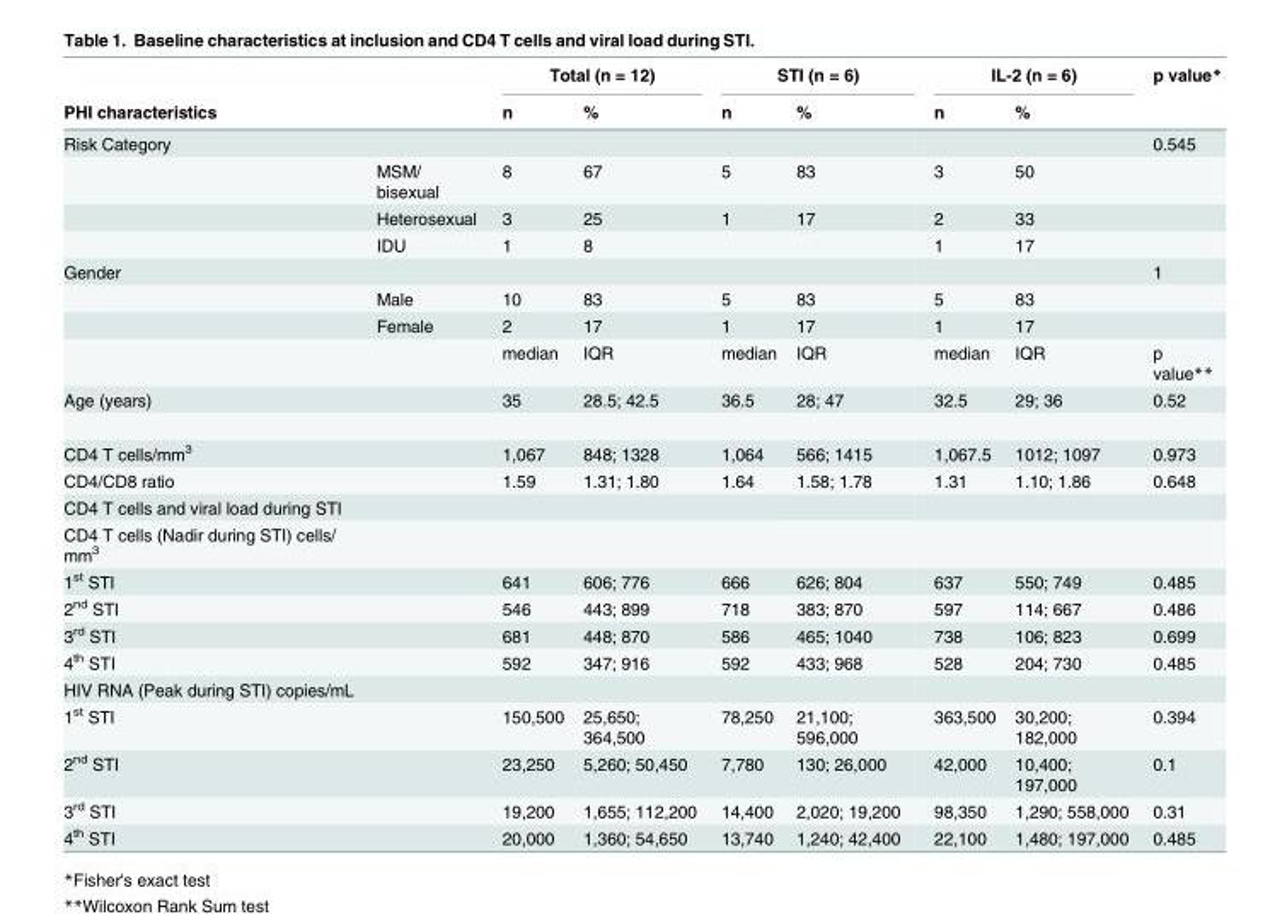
<table><thead><tr><td rowspan="2">PHI characteristics</td><td rowspan="2"></td><td colspan="2">Total (n = 12)</td><td colspan="2">STI (n = 6)</td><td colspan="2">IL-2 (n = 6)</td><td rowspan="2">p value*</td></tr><tr><td>n</td><td>%</td><td>n</td><td>%</td><td>n</td><td>%</td></tr></thead><tbody><tr><td rowspan="4">Risk Category</td><td></td><td></td><td></td><td></td><td></td><td></td><td></td><td>0.545</td></tr><tr><td>MSM/ bisexual</td><td>8</td><td>67</td><td>5</td><td>83</td><td>3</td><td>50</td><td></td></tr><tr><td>Heterosexual</td><td>3</td><td>25</td><td>1</td><td>17</td><td>2</td><td>33</td><td></td></tr><tr><td>IDU</td><td>1</td><td>8</td><td></td><td></td><td>1</td><td>17</td><td></td></tr><tr><td rowspan="4">Gender</td><td></td><td></td><td></td><td></td><td></td><td></td><td></td><td>1</td></tr><tr><td>Male</td><td>10</td><td>83</td><td>5</td><td>83</td><td>5</td><td>83</td><td></td></tr><tr><td>Female</td><td>2</td><td>17</td><td>1</td><td>17</td><td>1</td><td>17</td><td></td></tr><tr><td></td><td>median</td><td>IQR</td><td>median</td><td>IQR</td><td>median</td><td>IQR</td><td>p value**</td></tr><tr><td>Age (years)</td><td></td><td>35</td><td>28.5; 42.5</td><td>36.5</td><td>28; 47</td><td>32.5</td><td>29; 36</td><td>0.52</td></tr><tr><td>CD4 T cells/mm<sup>3</sup></td><td></td><td>1,067</td><td>848; 1328</td><td>1,064</td><td>566; 1415</td><td>1,067.5</td><td>1012; 1097</td><td>0.973</td></tr><tr><td>CD4/CD8 ratio</td><td></td><td>1.59</td><td>1.31; 1.80</td><td>1.64</td><td>1.58; 1.78</td><td>1.31</td><td>1.10; 1.86</td><td>0.648</td></tr><tr><td colspan="9">CD4 T cells and viral load during STI</td></tr><tr><td colspan="9">CD4 T cells (Nadir during STI) cells/ mm<sup>3</sup></td></tr><tr><td>1<sup>st</sup> STI</td><td></td><td>641</td><td>606; 776</td><td>666</td><td>626; 804</td><td>637</td><td>550; 749</td><td>0.485</td></tr><tr><td>2<sup>nd</sup> STI</td><td></td><td>546</td><td>443; 899</td><td>718</td><td>383; 870</td><td>597</td><td>114; 667</td><td>0.486</td></tr><tr><td>3<sup>rd</sup> STI</td><td></td><td>681</td><td>448; 870</td><td>586</td><td>465; 1040</td><td>738</td><td>106; 823</td><td>0.699</td></tr><tr><td>4<sup>th</sup> STI</td><td></td><td>592</td><td>347; 916</td><td>592</td><td>433; 968</td><td>528</td><td>204; 730</td><td>0.485</td></tr><tr><td colspan="9">HIV RNA (Peak during STI) copies/mL</td></tr><tr><td>1<sup>st</sup> STI</td><td></td><td>150,500</td><td>25,650; 364,500</td><td>78,250</td><td>21,100; 596,000</td><td>363,500</td><td>30,200; 182,000</td><td>0.394</td></tr><tr><td>2<sup>nd</sup> STI</td><td></td><td>23,250</td><td>5,260; 50,450</td><td>7,780</td><td>130; 26,000</td><td>42,000</td><td>10,400; 197,000</td><td>0.1</td></tr><tr><td>3<sup>rd</sup> STI</td><td></td><td>19,200</td><td>1,655; 112,200</td><td>14,400</td><td>2,020; 19,200</td><td>98,350</td><td>1,290; 558,000</td><td>0.31</td></tr><tr><td>4<sup>th</sup> STI</td><td></td><td>20,000</td><td>1,360; 54,650</td><td>13,740</td><td>1,240; 42,400</td><td>22,100</td><td>1,480; 197,000</td><td>0.485</td></tr></tbody></table>